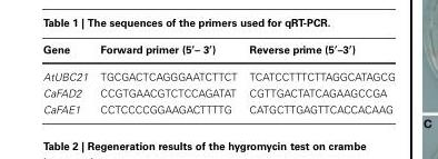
<table><thead><tr><td>Gene</td><td>Forward primer (5′– 3′)</td><td>Reverse prime (5′–3′)</td></tr></thead><tbody><tr><td>AtUBC21</td><td>TGCGACTCAGGGAATCTTCT</td><td>TCATCCTTTCTTAGGCATAGCG</td></tr><tr><td>CaFAD2</td><td>CCGTGAACGTCTCCAGATAT</td><td>CGTTGACTATCAGAAGCCGA</td></tr><tr><td>CaFAE1</td><td>CCTCCCCGGAAGACTTTTG</td><td>CATGCTTGAGTTCACCACAAG</td></tr></tbody></table>